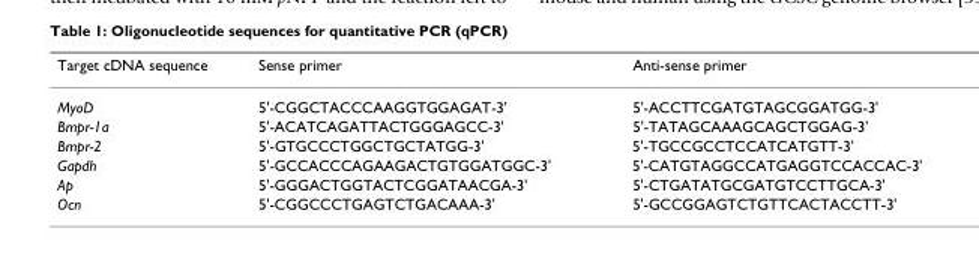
<table><thead><tr><td>Target cDNA sequence</td><td>Sense primer</td><td>Anti-sense primer</td></tr></thead><tbody><tr><td>MyoD</td><td>5&#x27;-CGGCTACCCAAGGTGGAGAT-3&#x27;</td><td>5&#x27;-ACCTTCGATGTAGCGGATGG-3&#x27;</td></tr><tr><td>Bmpr-1a</td><td>5&#x27;-ACATCAGATTACTGGGAGCC-3&#x27;</td><td>5&#x27;-TATAGCAAAGCAGCTGGAG-3&#x27;</td></tr><tr><td>Bmpr-2</td><td>5&#x27;-GTGCCCTGGCTGCTATGG-3&#x27;</td><td>5&#x27;-TGCCGCCTCCATCATGTT-3&#x27;</td></tr><tr><td>Gapdh</td><td>5&#x27;-GCCACCCAGAAGACTGTGGATGGC-3&#x27;</td><td>5&#x27;-CATGTAGGCCATGAGGTCCACCAC-3&#x27;</td></tr><tr><td>Ap</td><td>5&#x27;-GGGACTGGTACTCGGATAACGA-3&#x27;</td><td>5&#x27;-CTGATATGCGATGTCCTTGCA-3&#x27;</td></tr><tr><td>Ocn</td><td>5&#x27;-CGGCCCTGAGTCTGACAAA-3&#x27;</td><td>5&#x27;-GCCGGAGTCTGTTCACTACCTT-3&#x27;</td></tr></tbody></table>